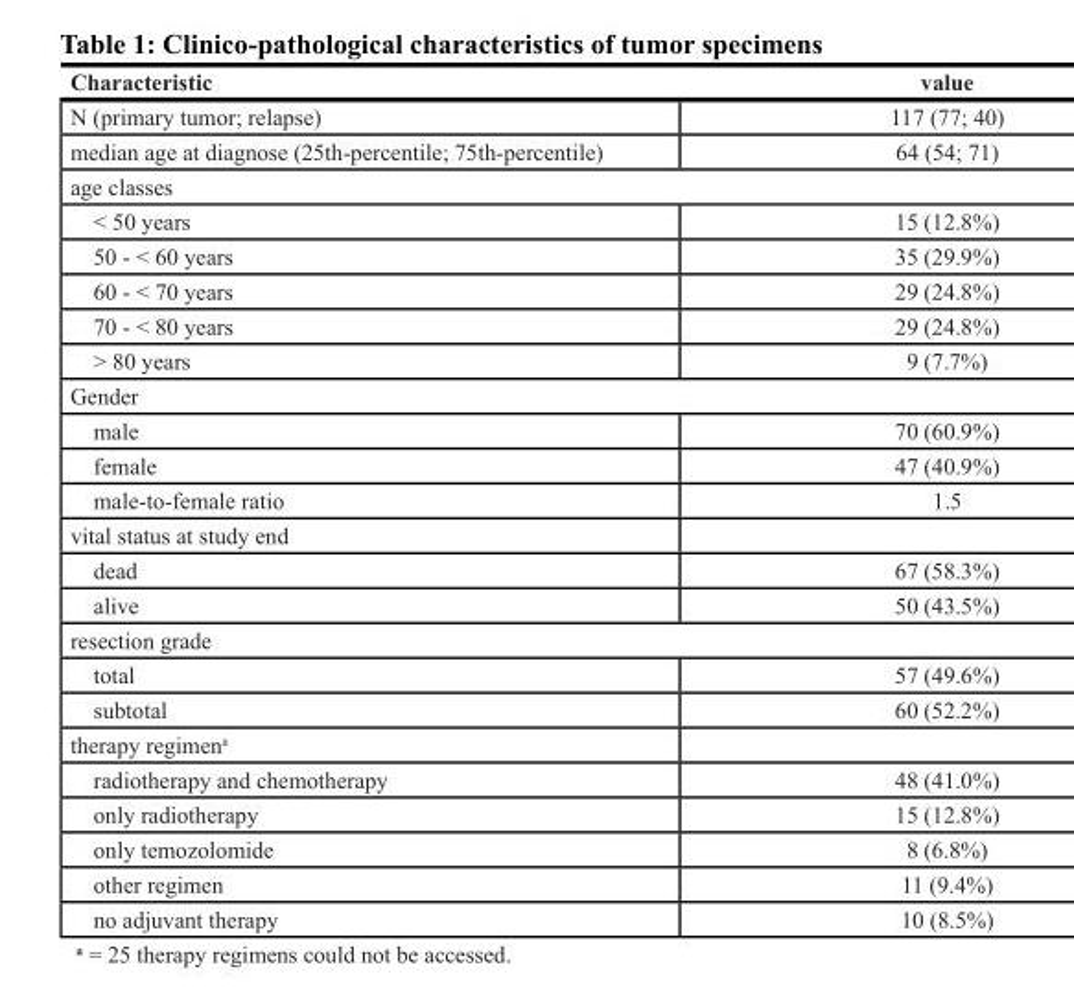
<table><thead><tr><td>Characteristic</td><td>value</td></tr></thead><tbody><tr><td>N (primary tumor; relapse)</td><td>117 (77; 40)</td></tr><tr><td>median age at diagnose (25th-percentile; 75th-percentile)</td><td>64 (54; 71)</td></tr><tr><td colspan="2">age classes</td></tr><tr><td>&lt; 50 years</td><td>15 (12.8%)</td></tr><tr><td>50 - &lt; 60 years</td><td>35 (29.9%)</td></tr><tr><td>60 - &lt; 70 years</td><td>29 (24.8%)</td></tr><tr><td>70 - &lt; 80 years</td><td>29 (24.8%)</td></tr><tr><td>&gt; 80 years</td><td>9 (7.7%)</td></tr><tr><td colspan="2">Gender</td></tr><tr><td>male</td><td>70 (60.9%)</td></tr><tr><td>female</td><td>47 (40.9%)</td></tr><tr><td>male-to-female ratio</td><td>1.5</td></tr><tr><td colspan="2">vital status at study end</td></tr><tr><td>dead</td><td>67 (58.3%)</td></tr><tr><td>alive</td><td>50 (43.5%)</td></tr><tr><td colspan="2">resection grade</td></tr><tr><td>total</td><td>57 (49.6%)</td></tr><tr><td>subtotal</td><td>60 (52.2%)</td></tr><tr><td colspan="2">therapy regimen<sup>a</sup></td></tr><tr><td>radiotherapy and chemotherapy</td><td>48 (41.0%)</td></tr><tr><td>only radiotherapy</td><td>15 (12.8%)</td></tr><tr><td>only temozolomide</td><td>8 (6.8%)</td></tr><tr><td>other regimen</td><td>11 (9.4%)</td></tr><tr><td>no adjuvant therapy</td><td>10 (8.5%)</td></tr></tbody></table>